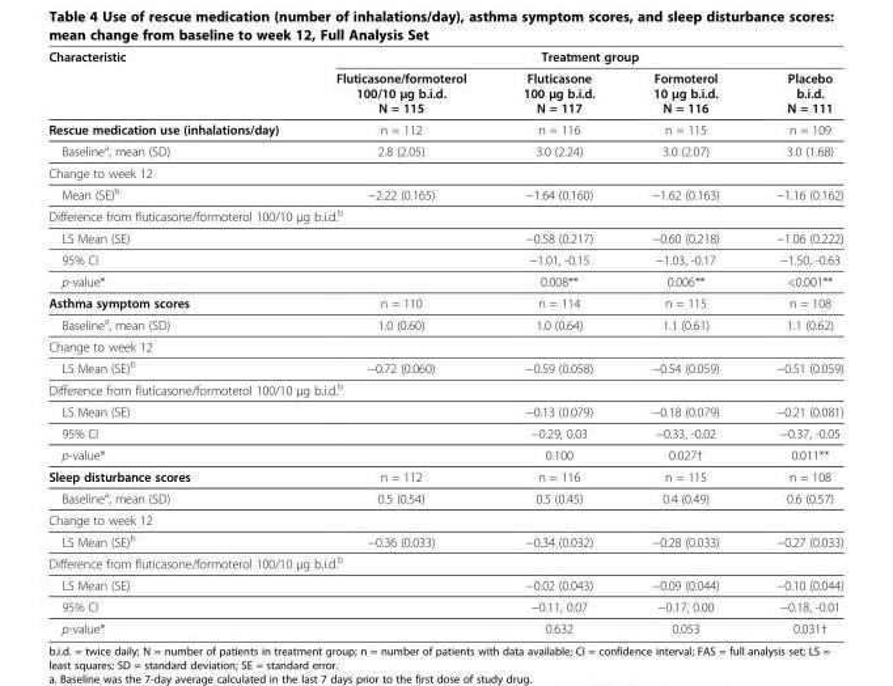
<table><thead><tr><td rowspan="2">Characteristic</td><td colspan="4">Treatment group</td></tr><tr><td>Fluticasone/formoterol 100/10 μg b.i.d. N = 115</td><td>Fluticasone 100 μg b.i.d. N = 117</td><td>Formoterol 10 μg b.i.d. N = 116</td><td>Placebo b.i.d. N = 111</td></tr></thead><tbody><tr><td>Rescue medication use (inhalations/day)</td><td>n = 112</td><td>n = 116</td><td>n = 115</td><td>n = 109</td></tr><tr><td>Baseline<sup>a</sup>, mean (SD)</td><td>2.8 (2.05)</td><td>3.0 (2.24)</td><td>3.0 (2.07)</td><td>3.0 (1.68)</td></tr><tr><td colspan="5">Change to week 12</td></tr><tr><td>Mean (SE)<sup>b</sup></td><td>−2.22 (0.165)</td><td>−1.64 (0.160)</td><td>−1.62 (0.163)</td><td>−1.16 (0.162)</td></tr><tr><td colspan="5">Difference from fluticasone/formoterol 100/10 μg b.i.d.<sup>b</sup></td></tr><tr><td>LS Mean (SE)</td><td></td><td>−0.58 (0.217)</td><td>−0.60 (0.218)</td><td>−1.06 (0.222)</td></tr><tr><td>95% CI</td><td></td><td>−1.01, -0.15</td><td>−1.03, -0.17</td><td>−1.50, -0.63</td></tr><tr><td>p-value*</td><td></td><td>0.008**</td><td>0.006**</td><td>&lt;0.001**</td></tr><tr><td>Asthma symptom scores</td><td>n = 110</td><td>n = 114</td><td>n = 115</td><td>n = 108</td></tr><tr><td>Baseline<sup>a</sup>, mean (SD)</td><td>1.0 (0.60)</td><td>1.0 (0.64)</td><td>1.1 (0.61)</td><td>1.1 (0.62)</td></tr><tr><td colspan="5">Change to week 12</td></tr><tr><td>LS Mean (SE)<sup>b</sup></td><td>−0.72 (0.060)</td><td>−0.59 (0.058)</td><td>−0.54 (0.059)</td><td>−0.51 (0.059)</td></tr><tr><td colspan="5">Difference from fluticasone/formoterol 100/10 μg b.i.d.<sup>b</sup></td></tr><tr><td>LS Mean (SE)</td><td></td><td>−0.13 (0.079)</td><td>−0.18 (0.079)</td><td>−0.21 (0.081)</td></tr><tr><td>95% CI</td><td></td><td>−0.29, 0.03</td><td>−0.33, -0.02</td><td>−0.37, -0.05</td></tr><tr><td>p-value*</td><td></td><td>0.100</td><td>0.027†</td><td>0.011**</td></tr><tr><td>Sleep disturbance scores</td><td>n = 112</td><td>n = 116</td><td>n = 115</td><td>n = 108</td></tr><tr><td>Baseline<sup>a</sup>, mean (SD)</td><td>0.5 (0.54)</td><td>0.5 (0.45)</td><td>0.4 (0.49)</td><td>0.6 (0.57)</td></tr><tr><td colspan="5">Change to week 12</td></tr><tr><td>LS Mean (SE)<sup>b</sup></td><td>−0.36 (0.033)</td><td>−0.34 (0.032)</td><td>−0.28 (0.033)</td><td>−0.27 (0.033)</td></tr><tr><td colspan="5">Difference from fluticasone/formoterol 100/10 μg b.i.d.<sup>b</sup></td></tr><tr><td>LS Mean (SE)</td><td></td><td>−0.02 (0.043)</td><td>−0.09 (0.044)</td><td>−0.10 (0.044)</td></tr><tr><td>95% CI</td><td></td><td>−0.11, 0.07</td><td>−0.17, 0.00</td><td>−0.18, -0.01</td></tr><tr><td>p-value*</td><td></td><td>0.632</td><td>0.053</td><td>0.031†</td></tr></tbody></table>